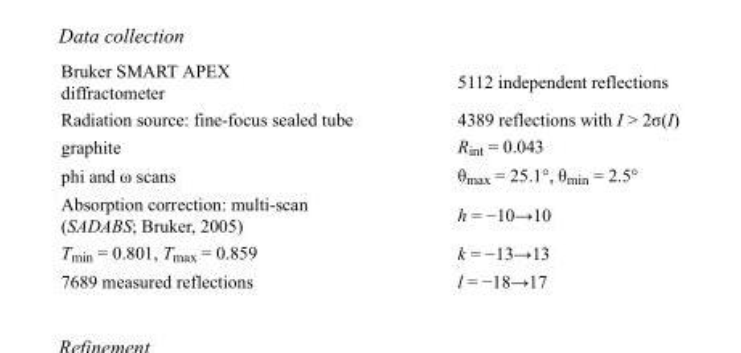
<table><tbody><tr><td>Bruker SMART APEX diffractometer</td><td>5112 independent reflections</td></tr><tr><td>Radiation source: fine-focus sealed tube</td><td>4389 reflections with I &gt; 2σ(I)</td></tr><tr><td>graphite</td><td>R<sub>int</sub> = 0.043</td></tr><tr><td>phi and ω scans</td><td>θ<sub>max</sub> = 25.1°, θ<sub>min</sub> = 2.5°</td></tr><tr><td>Absorption correction: multi-scan (SADABS; Bruker, 2005)</td><td>h = −10→10</td></tr><tr><td>T<sub>min</sub> = 0.801, T<sub>max</sub> = 0.859</td><td>k = −13→13</td></tr><tr><td>7689 measured reflections</td><td>l = −18→17</td></tr></tbody></table>